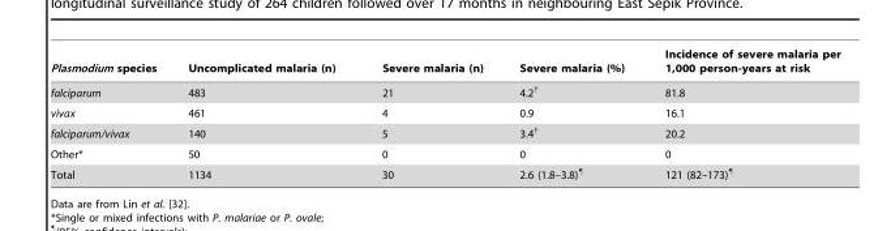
<table><thead><tr><td>Plasmodium species</td><td>Uncomplicated malaria (n)</td><td>Severe malaria (n)</td><td>Severe malaria (%)</td><td>Incidence of severe malaria per 1,000 person-years at risk</td></tr></thead><tbody><tr><td>falciparum</td><td>483</td><td>21</td><td>4.2†</td><td>81.8</td></tr><tr><td>vivax</td><td>461</td><td>4</td><td>0.9</td><td>16.1</td></tr><tr><td>falciparum/vivax</td><td>140</td><td>5</td><td>3.4†</td><td>20.2</td></tr><tr><td>Other*</td><td>50</td><td>0</td><td>0</td><td>0</td></tr><tr><td>Total</td><td>1134</td><td>30</td><td>2.6 (1.8–3.8)¶</td><td>121 (82–173)¶</td></tr></tbody></table>